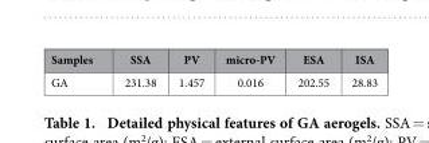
<table><thead><tr><td>Samples</td><td>SSA</td><td>PV</td><td>micro-PV</td><td>ESA</td><td>ISA</td></tr></thead><tbody><tr><td>GA</td><td>231.38</td><td>1.457</td><td>0.016</td><td>202.55</td><td>28.83</td></tr></tbody></table>